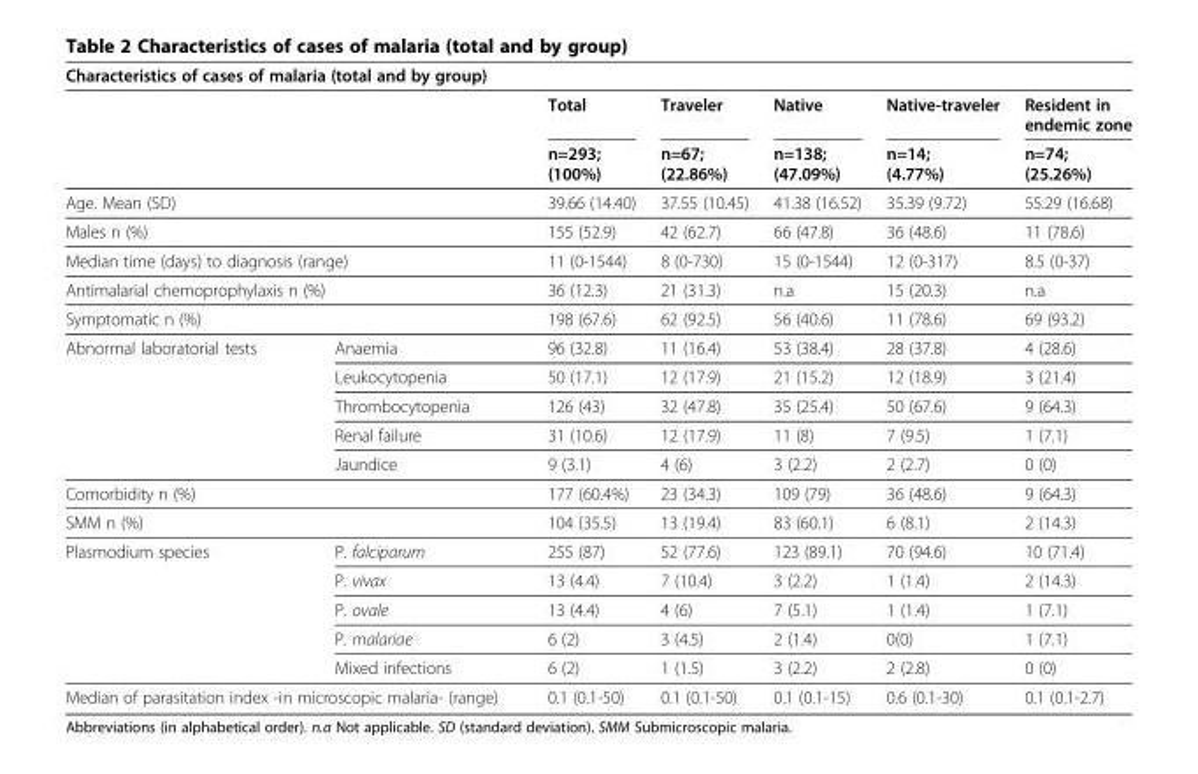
<table><thead><tr><td colspan="7">Characteristics of cases of malaria (total and by group)</td></tr><tr><td rowspan="2"></td><td rowspan="2"></td><td rowspan="2">Total n=293; (100%)</td><td rowspan="2">Traveler n=67; (22.86%)</td><td rowspan="2">Native n=138; (47.09%)</td><td rowspan="2">Native-traveler n=14; (4.77%)</td><td rowspan="2">Resident in endemic zone n=74; (25.26%)</td></tr><tr></tr></thead><tbody><tr><td colspan="2">Age. Mean (SD)</td><td>39.66 (14.40)</td><td>37.55 (10.45)</td><td>41.38 (16.52)</td><td>35.39 (9.72)</td><td>55.29 (16.68)</td></tr><tr><td colspan="2">Males n (%)</td><td>155 (52.9)</td><td>42 (62.7)</td><td>66 (47.8)</td><td>36 (48.6)</td><td>11 (78.6)</td></tr><tr><td colspan="2">Median time (days) to diagnosis (range)</td><td>11 (0-1544)</td><td>8 (0-730)</td><td>15 (0-1544)</td><td>12 (0-317)</td><td>8.5 (0-37)</td></tr><tr><td colspan="2">Antimalarial chemoprophylaxis n (%)</td><td>36 (12.3)</td><td>21 (31.3)</td><td>n.a</td><td>15 (20.3)</td><td>n.a</td></tr><tr><td colspan="2">Symptomatic n (%)</td><td>198 (67.6)</td><td>62 (92.5)</td><td>56 (40.6)</td><td>11 (78.6)</td><td>69 (93.2)</td></tr><tr><td rowspan="5">Abnormal laboratorial tests</td><td>Anaemia</td><td>96 (32.8)</td><td>11 (16.4)</td><td>53 (38.4)</td><td>28 (37.8)</td><td>4 (28.6)</td></tr><tr><td>Leukocytopenia</td><td>50 (17.1)</td><td>12 (17.9)</td><td>21 (15.2)</td><td>12 (18.9)</td><td>3 (21.4)</td></tr><tr><td>Thrombocytopenia</td><td>126 (43)</td><td>32 (47.8)</td><td>35 (25.4)</td><td>50 (67.6)</td><td>9 (64.3)</td></tr><tr><td>Renal failure</td><td>31 (10.6)</td><td>12 (17.9)</td><td>11 (8)</td><td>7 (9.5)</td><td>1 (7.1)</td></tr><tr><td>Jaundice</td><td>9 (3.1)</td><td>4 (6)</td><td>3 (2.2)</td><td>2 (2.7)</td><td>0 (0)</td></tr><tr><td colspan="2">Comorbidity n (%)</td><td>177 (60.4%)</td><td>23 (34.3)</td><td>109 (79)</td><td>36 (48.6)</td><td>9 (64.3)</td></tr><tr><td colspan="2">SMM n (%)</td><td>104 (35.5)</td><td>13 (19.4)</td><td>83 (60.1)</td><td>6 (8.1)</td><td>2 (14.3)</td></tr><tr><td rowspan="5">Plasmodium species</td><td>P. falciparum</td><td>255 (87)</td><td>52 (77.6)</td><td>123 (89.1)</td><td>70 (94.6)</td><td>10 (71.4)</td></tr><tr><td>P. vivax</td><td>13 (4.4)</td><td>7 (10.4)</td><td>3 (2.2)</td><td>1 (1.4)</td><td>2 (14.3)</td></tr><tr><td>P. ovale</td><td>13 (4.4)</td><td>4 (6)</td><td>7 (5.1)</td><td>1 (1.4)</td><td>1 (7.1)</td></tr><tr><td>P. malariae</td><td>6 (2)</td><td>3 (4.5)</td><td>2 (1.4)</td><td>0(0)</td><td>1 (7.1)</td></tr><tr><td>Mixed infections</td><td>6 (2)</td><td>1 (1.5)</td><td>3 (2.2)</td><td>2 (2.8)</td><td>0 (0)</td></tr><tr><td colspan="2">Median of parasitation index -in microscopic malaria- (range)</td><td>0.1 (0.1-50)</td><td>0.1 (0.1-50)</td><td>0.1 (0.1-15)</td><td>0.6 (0.1-30)</td><td>0.1 (0.1-2.7)</td></tr></tbody></table>